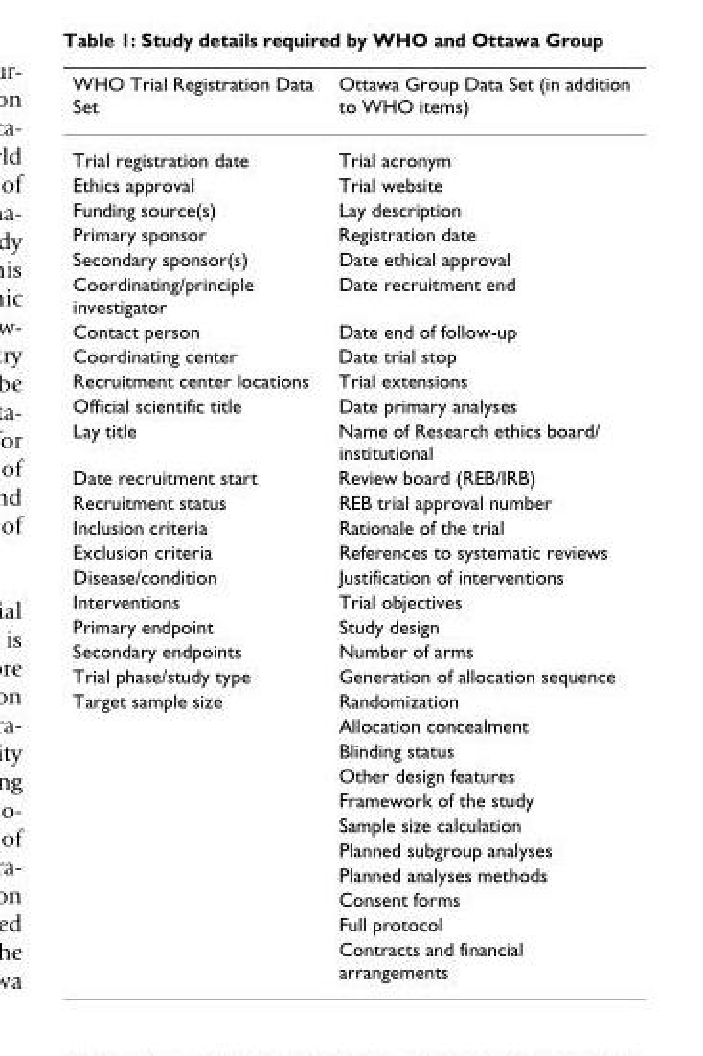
<table><thead><tr><td>WHO Trial Registration Data Set</td><td>Ottawa Group Data Set (in addition to WHO items)</td></tr></thead><tbody><tr><td>Trial registration date</td><td>Trial acronym</td></tr><tr><td>Ethics approval</td><td>Trial website</td></tr><tr><td>Funding source(s)</td><td>Lay description</td></tr><tr><td>Primary sponsor</td><td>Registration date</td></tr><tr><td>Secondary sponsor(s)</td><td>Date ethical approval</td></tr><tr><td>Coordinating/principle investigator</td><td>Date recruitment end</td></tr><tr><td>Contact person</td><td>Date end of follow-up</td></tr><tr><td>Coordinating center</td><td>Date trial stop</td></tr><tr><td>Recruitment center locations</td><td>Trial extensions</td></tr><tr><td>Official scientific title</td><td>Date primary analyses</td></tr><tr><td>Lay title</td><td>Name of Research ethics board/ institutional</td></tr><tr><td>Date recruitment start</td><td>Review board (REB/IRB)</td></tr><tr><td>Recruitment status</td><td>REB trial approval number</td></tr><tr><td>Inclusion criteria</td><td>Rationale of the trial</td></tr><tr><td>Exclusion criteria</td><td>References to systematic reviews</td></tr><tr><td>Disease/condition</td><td>Justification of interventions</td></tr><tr><td>Interventions</td><td>Trial objectives</td></tr><tr><td>Primary endpoint</td><td>Study design</td></tr><tr><td>Secondary endpoints</td><td>Number of arms</td></tr><tr><td>Trial phase/study type</td><td>Generation of allocation sequence</td></tr><tr><td rowspan="11">Target sample size</td><td>Randomization</td></tr><tr><td>Allocation concealment</td></tr><tr><td>Blinding status</td></tr><tr><td>Other design features</td></tr><tr><td>Framework of the study</td></tr><tr><td>Sample size calculation</td></tr><tr><td>Planned subgroup analyses</td></tr><tr><td>Planned analyses methods</td></tr><tr><td>Consent forms</td></tr><tr><td>Full protocol</td></tr><tr><td>Contracts and financial arrangements</td></tr></tbody></table>